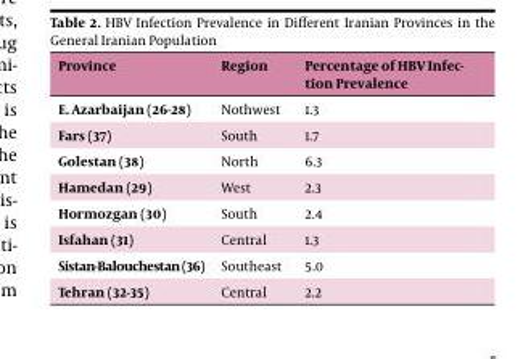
<table><thead><tr><td>Province</td><td>Region</td><td>Percentage of HBV Infec- tion Prevalence</td></tr></thead><tbody><tr><td>E. Azarbaijan (26-28)</td><td>Nothwest</td><td>1.3</td></tr><tr><td>Fars (37)</td><td>South</td><td>1.7</td></tr><tr><td>Golestan (38)</td><td>North</td><td>6.3</td></tr><tr><td>Hamedan (29)</td><td>West</td><td>2.3</td></tr><tr><td>Hormozgan (30)</td><td>South</td><td>2.4</td></tr><tr><td>Isfahan (31)</td><td>Central</td><td>1.3</td></tr><tr><td>Sistan-Balouchestan (36)</td><td>Southeast</td><td>5.0</td></tr><tr><td>Tehran (32-35)</td><td>Central</td><td>2.2</td></tr></tbody></table>